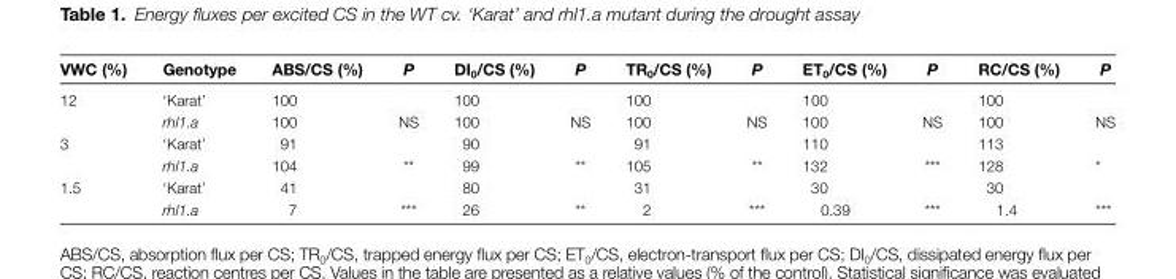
<table><thead><tr><td>VWC (%)</td><td>Genotype</td><td>ABS/CS (%)</td><td>P</td><td>DI<sub>0</sub>/CS (%)</td><td>P</td><td>TR<sub>0</sub>/CS (%)</td><td>P</td><td>ET<sub>0</sub>/CS (%)</td><td>P</td><td>RC/CS (%)</td><td>P</td></tr></thead><tbody><tr><td rowspan="2">12</td><td>‘Karat’</td><td>100</td><td></td><td>100</td><td></td><td>100</td><td></td><td>100</td><td></td><td>100</td><td></td></tr><tr><td>rhl1.a</td><td>100</td><td>NS</td><td>100</td><td>NS</td><td>100</td><td>NS</td><td>100</td><td>NS</td><td>100</td><td>NS</td></tr><tr><td rowspan="2">3</td><td>‘Karat’</td><td>91</td><td></td><td>90</td><td></td><td>91</td><td></td><td>110</td><td></td><td>113</td><td></td></tr><tr><td>rhl1.a</td><td>104</td><td>**</td><td>99</td><td>**</td><td>105</td><td>**</td><td>132</td><td>***</td><td>128</td><td>*</td></tr><tr><td rowspan="2">1.5</td><td>‘Karat’</td><td>41</td><td></td><td>80</td><td></td><td>31</td><td></td><td>30</td><td></td><td>30</td><td></td></tr><tr><td>rhl1.a</td><td>7</td><td>***</td><td>26</td><td>**</td><td>2</td><td>***</td><td>0.39</td><td>***</td><td>1.4</td><td>***</td></tr></tbody></table>